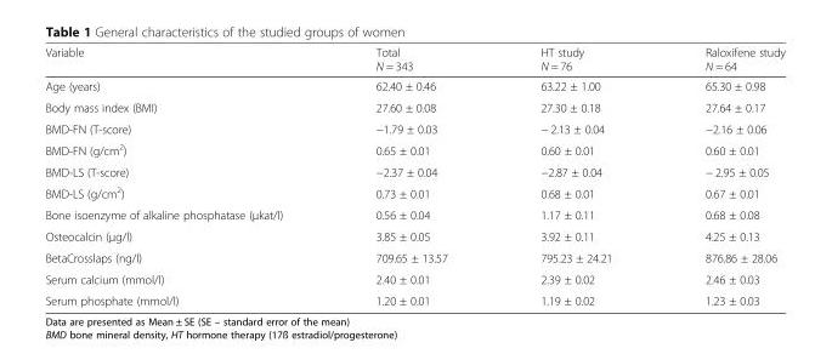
<table><thead><tr><td>Variable</td><td>Total N = 343</td><td>HT study N = 76</td><td>Raloxifene study N = 64</td></tr></thead><tbody><tr><td>Age (years)</td><td>62.40 ± 0.46</td><td>63.22 ± 1.00</td><td>65.30 ± 0.98</td></tr><tr><td>Body mass index (BMI)</td><td>27.60 ± 0.08</td><td>27.30 ± 0.18</td><td>27.64 ± 0.17</td></tr><tr><td>BMD-FN (T-score)</td><td>−1.79 ± 0.03</td><td>− 2.13 ± 0.04</td><td>−2.16 ± 0.06</td></tr><tr><td>BMD-FN (g/cm<sup>2</sup>)</td><td>0.65 ± 0.01</td><td>0.60 ± 0.01</td><td>0.60 ± 0.01</td></tr><tr><td>BMD-LS (T-score)</td><td>−2.37 ± 0.04</td><td>−2.87 ± 0.04</td><td>− 2.95 ± 0.05</td></tr><tr><td>BMD-LS (g/cm<sup>2</sup>)</td><td>0.73 ± 0.01</td><td>0.68 ± 0.01</td><td>0.67 ± 0.01</td></tr><tr><td>Bone isoenzyme of alkaline phosphatase (μkat/l)</td><td>0.56 ± 0.04</td><td>1.17 ± 0.11</td><td>0.68 ± 0.08</td></tr><tr><td>Osteocalcin (μg/l)</td><td>3.85 ± 0.05</td><td>3.92 ± 0.11</td><td>4.25 ± 0.13</td></tr><tr><td>BetaCrosslaps (ng/l)</td><td>709.65 ± 13.57</td><td>795.23 ± 24.21</td><td>876.86 ± 28.06</td></tr><tr><td>Serum calcium (mmol/l)</td><td>2.40 ± 0.01</td><td>2.39 ± 0.02</td><td>2.46 ± 0.03</td></tr><tr><td>Serum phosphate (mmol/l)</td><td>1.20 ± 0.01</td><td>1.19 ± 0.02</td><td>1.23 ± 0.03</td></tr></tbody></table>